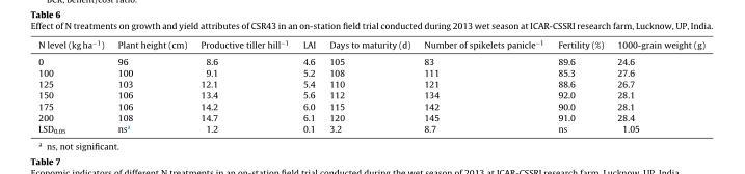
<table><thead><tr><td>N level (kg ha<sup>−1</sup>)</td><td>Plant height (cm)</td><td>Productive tiller hill<sup>−1</sup></td><td>LAI</td><td>Days to maturity (d)</td><td>Number of spikelets panicle<sup>−1</sup></td><td>Fertility (%)</td><td>1000-grain weight (g)</td></tr></thead><tbody><tr><td>0</td><td>96</td><td>8.6</td><td>4.6</td><td>105</td><td>83</td><td>89.6</td><td>24.6</td></tr><tr><td>100</td><td>100</td><td>9.1</td><td>5.2</td><td>108</td><td>111</td><td>85.3</td><td>27.6</td></tr><tr><td>125</td><td>103</td><td>12.1</td><td>5.4</td><td>110</td><td>121</td><td>88.6</td><td>26.7</td></tr><tr><td>150</td><td>106</td><td>13.4</td><td>5.6</td><td>112</td><td>134</td><td>92.0</td><td>28.1</td></tr><tr><td>175</td><td>106</td><td>14.2</td><td>6.0</td><td>115</td><td>142</td><td>90.0</td><td>28.1</td></tr><tr><td>200</td><td>108</td><td>14.7</td><td>6.1</td><td>120</td><td>145</td><td>91.0</td><td>28.4</td></tr><tr><td>LSD<sub>0.05</sub></td><td>ns<sup>a</sup></td><td>1.2</td><td>0.1</td><td>3.2</td><td>8.7</td><td>ns</td><td>1.05</td></tr></tbody></table>